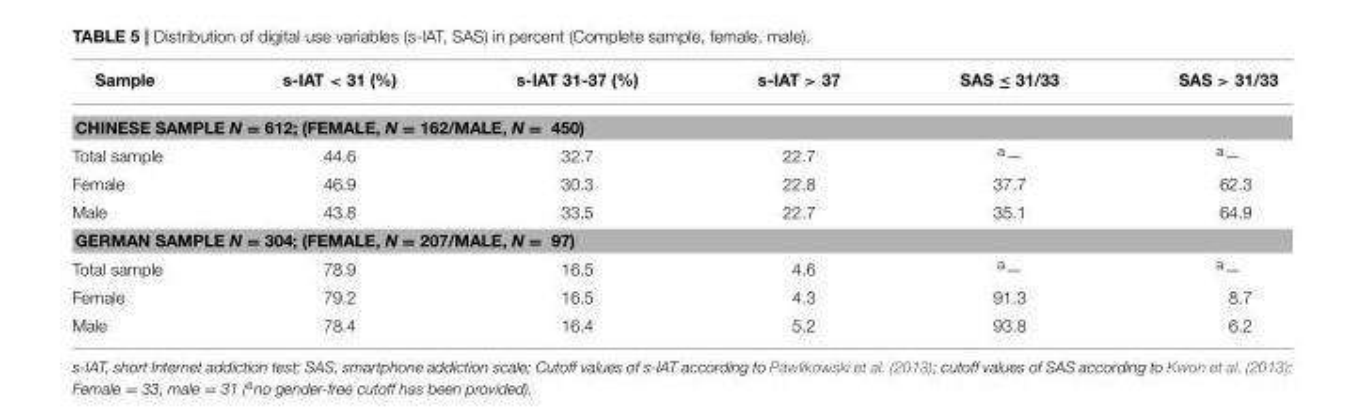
<table><thead><tr><td>Sample</td><td>s-IAT &lt; 31 (%)</td><td>s-IAT 31-37 (%)</td><td>s-IAT &gt; 37</td><td>SAS ≤ 31/33</td><td>SAS &gt; 31/33</td></tr></thead><tbody><tr><td colspan="6">CHINESE SAMPLE N = 612; (FEMALE, N = 162/MALE, N = 450)</td></tr><tr><td>Total sample</td><td>44.6</td><td>32.7</td><td>22.7</td><td><sup>a</sup>—</td><td><sup>a</sup>—</td></tr><tr><td>Female</td><td>46.9</td><td>30.3</td><td>22.8</td><td>37.7</td><td>62.3</td></tr><tr><td>Male</td><td>43.8</td><td>33.5</td><td>22.7</td><td>35.1</td><td>64.9</td></tr><tr><td colspan="6">GERMAN SAMPLE N = 304; (FEMALE, N = 207/MALE, N = 97)</td></tr><tr><td>Total sample</td><td>78.9</td><td>16.5</td><td>4.6</td><td><sup>a</sup>—</td><td><sup>a</sup>—</td></tr><tr><td>Female</td><td>79.2</td><td>16.5</td><td>4.3</td><td>91.3</td><td>8.7</td></tr><tr><td>Male</td><td>78.4</td><td>16.4</td><td>5.2</td><td>93.8</td><td>6.2</td></tr></tbody></table>